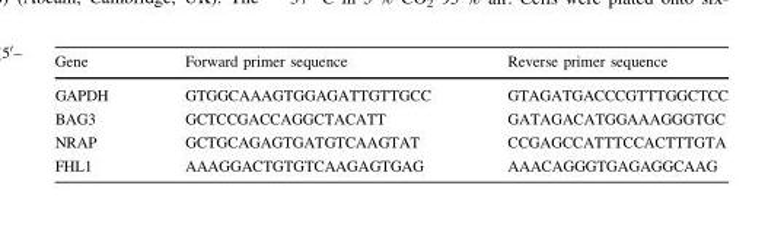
<table><thead><tr><td>Gene</td><td>Forward primer sequence</td><td>Reverse primer sequence</td></tr></thead><tbody><tr><td>GAPDH</td><td>GTGGCAAAGTGGAGATTGTTGCC</td><td>GTAGATGACCCGTTTGGCTCC</td></tr><tr><td>BAG3</td><td>GCTCCGACCAGGCTACATT</td><td>GATAGACATGGAAAGGGTGC</td></tr><tr><td>NRAP</td><td>GCTGCAGAGTGATGTCAAGTAT</td><td>CCGAGCCATTTCCACTTTGTA</td></tr><tr><td>FHL1</td><td>AAAGGACTGTGTCAAGAGTGAG</td><td>AAACAGGGTGAGAGGCAAG</td></tr></tbody></table>